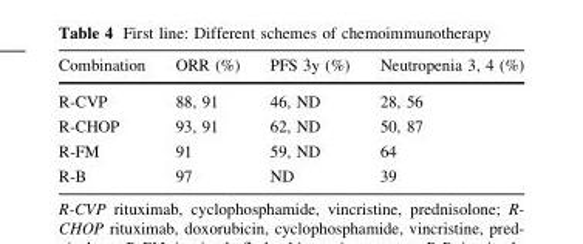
<table><thead><tr><td>Combination</td><td>ORR (%)</td><td>PFS 3y (%)</td><td>Neutropenia 3, 4 (%)</td></tr></thead><tbody><tr><td>R-CVP</td><td>88, 91</td><td>46, ND</td><td>28, 56</td></tr><tr><td>R-CHOP</td><td>93, 91</td><td>62, ND</td><td>50, 87</td></tr><tr><td>R-FM</td><td>91</td><td>59, ND</td><td>64</td></tr><tr><td>R-B</td><td>97</td><td>ND</td><td>39</td></tr></tbody></table>